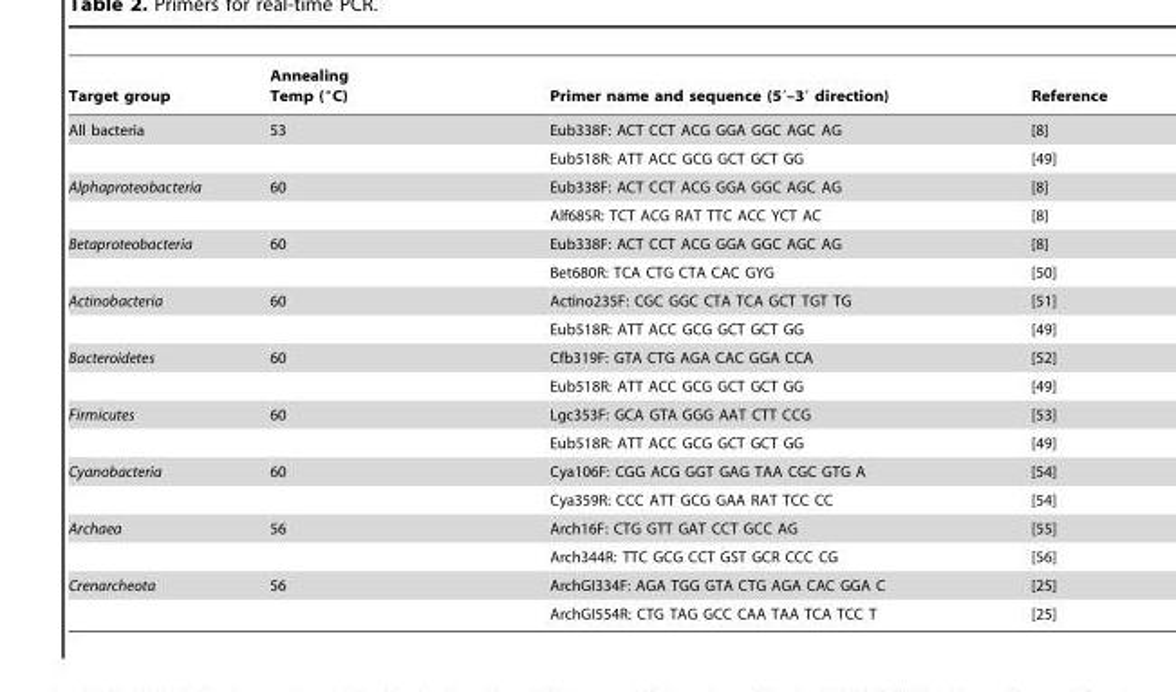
<table><thead><tr><td>Target group</td><td>Annealing Temp (°C)</td><td>Primer name and sequence (5′–3′ direction)</td><td>Reference</td></tr></thead><tbody><tr><td rowspan="2">All bacteria</td><td>53</td><td>Eub338F: ACT CCT ACG GGA GGC AGC AG</td><td>[8]</td></tr><tr><td></td><td>Eub518R: ATT ACC GCG GCT GCT GG</td><td>[49]</td></tr><tr><td rowspan="2">Alphaproteobacteria</td><td>60</td><td>Eub338F: ACT CCT ACG GGA GGC AGC AG</td><td>[8]</td></tr><tr><td></td><td>Alf685R: TCT ACG RAT TTC ACC YCT AC</td><td>[8]</td></tr><tr><td rowspan="2">Betaproteobacteria</td><td>60</td><td>Eub338F: ACT CCT ACG GGA GGC AGC AG</td><td>[8]</td></tr><tr><td></td><td>Bet680R: TCA CTG CTA CAC GYG</td><td>[50]</td></tr><tr><td rowspan="2">Actinobacteria</td><td>60</td><td>Actino235F: CGC GGC CTA TCA GCT TGT TG</td><td>[51]</td></tr><tr><td></td><td>Eub518R: ATT ACC GCG GCT GCT GG</td><td>[49]</td></tr><tr><td rowspan="2">Bacteroidetes</td><td>60</td><td>Cfb319F: GTA CTG AGA CAC GGA CCA</td><td>[52]</td></tr><tr><td></td><td>Eub518R: ATT ACC GCG GCT GCT GG</td><td>[49]</td></tr><tr><td rowspan="2">Firmicutes</td><td>60</td><td>Lgc353F: GCA GTA GGG AAT CTT CCG</td><td>[53]</td></tr><tr><td></td><td>Eub518R: ATT ACC GCG GCT GCT GG</td><td>[49]</td></tr><tr><td rowspan="2">Cyanobacteria</td><td>60</td><td>Cya106F: CGG ACG GGT GAG TAA CGC GTG A</td><td>[54]</td></tr><tr><td></td><td>Cya359R: CCC ATT GCG GAA RAT TCC CC</td><td>[54]</td></tr><tr><td rowspan="2">Archaea</td><td>56</td><td>Arch16F: CTG GTT GAT CCT GCC AG</td><td>[55]</td></tr><tr><td></td><td>Arch344R: TTC GCG CCT GST GCR CCC CG</td><td>[56]</td></tr><tr><td rowspan="2">Crenarcheota</td><td>56</td><td>ArchGI334F: AGA TGG GTA CTG AGA CAC GGA C</td><td>[25]</td></tr><tr><td></td><td>ArchGI554R: CTG TAG GCC CAA TAA TCA TCC T</td><td>[25]</td></tr></tbody></table>